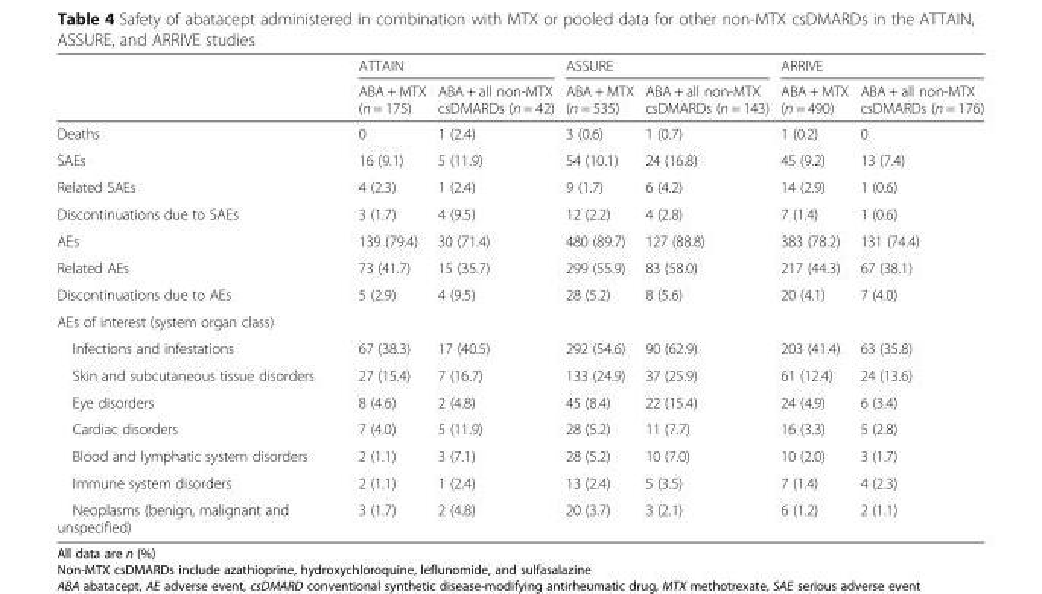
<table><thead><tr><td rowspan="2"></td><td colspan="2">ATTAIN</td><td colspan="2">ASSURE</td><td colspan="2">ARRIVE</td></tr><tr><td>ABA + MTX (n = 175)</td><td>ABA + all non-MTX csDMARDs (n = 42)</td><td>ABA + MTX (n = 535)</td><td>ABA + all non-MTX csDMARDs (n = 143)</td><td>ABA + MTX (n = 490)</td><td>ABA + all non-MTX csDMARDs (n = 176)</td></tr></thead><tbody><tr><td>Deaths</td><td>0</td><td>1 (2.4)</td><td>3 (0.6)</td><td>1 (0.7)</td><td>1 (0.2)</td><td>0</td></tr><tr><td>SAEs</td><td>16 (9.1)</td><td>5 (11.9)</td><td>54 (10.1)</td><td>24 (16.8)</td><td>45 (9.2)</td><td>13 (7.4)</td></tr><tr><td>Related SAEs</td><td>4 (2.3)</td><td>1 (2.4)</td><td>9 (1.7)</td><td>6 (4.2)</td><td>14 (2.9)</td><td>1 (0.6)</td></tr><tr><td>Discontinuations due to SAEs</td><td>3 (1.7)</td><td>4 (9.5)</td><td>12 (2.2)</td><td>4 (2.8)</td><td>7 (1.4)</td><td>1 (0.6)</td></tr><tr><td>AEs</td><td>139 (79.4)</td><td>30 (71.4)</td><td>480 (89.7)</td><td>127 (88.8)</td><td>383 (78.2)</td><td>131 (74.4)</td></tr><tr><td>Related AEs</td><td>73 (41.7)</td><td>15 (35.7)</td><td>299 (55.9)</td><td>83 (58.0)</td><td>217 (44.3)</td><td>67 (38.1)</td></tr><tr><td>Discontinuations due to AEs</td><td>5 (2.9)</td><td>4 (9.5)</td><td>28 (5.2)</td><td>8 (5.6)</td><td>20 (4.1)</td><td>7 (4.0)</td></tr><tr><td colspan="7">AEs of interest (system organ class)</td></tr><tr><td>Infections and infestations</td><td>67 (38.3)</td><td>17 (40.5)</td><td>292 (54.6)</td><td>90 (62.9)</td><td>203 (41.4)</td><td>63 (35.8)</td></tr><tr><td>Skin and subcutaneous tissue disorders</td><td>27 (15.4)</td><td>7 (16.7)</td><td>133 (24.9)</td><td>37 (25.9)</td><td>61 (12.4)</td><td>24 (13.6)</td></tr><tr><td>Eye disorders</td><td>8 (4.6)</td><td>2 (4.8)</td><td>45 (8.4)</td><td>22 (15.4)</td><td>24 (4.9)</td><td>6 (3.4)</td></tr><tr><td>Cardiac disorders</td><td>7 (4.0)</td><td>5 (11.9)</td><td>28 (5.2)</td><td>11 (7.7)</td><td>16 (3.3)</td><td>5 (2.8)</td></tr><tr><td>Blood and lymphatic system disorders</td><td>2 (1.1)</td><td>3 (7.1)</td><td>28 (5.2)</td><td>10 (7.0)</td><td>10 (2.0)</td><td>3 (1.7)</td></tr><tr><td>Immune system disorders</td><td>2 (1.1)</td><td>1 (2.4)</td><td>13 (2.4)</td><td>5 (3.5)</td><td>7 (1.4)</td><td>4 (2.3)</td></tr><tr><td>Neoplasms (benign, malignant and unspecified)</td><td>3 (1.7)</td><td>2 (4.8)</td><td>20 (3.7)</td><td>3 (2.1)</td><td>6 (1.2)</td><td>2 (1.1)</td></tr></tbody></table>